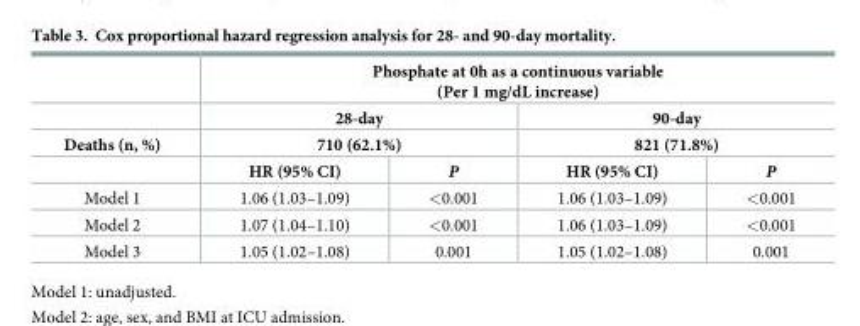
<table><thead><tr><td rowspan="4">Deaths (n, %)</td><td colspan="4">Phosphate at 0h as a continuous variable (Per 1 mg/dL increase)</td></tr><tr><td rowspan="2" colspan="2">28-day 710 (62.1%)</td><td rowspan="2" colspan="2">90-day 821 (71.8%)</td></tr><tr></tr><tr><td>HR (95% CI)</td><td>P</td><td>HR (95% CI)</td><td>P</td></tr></thead><tbody><tr><td>Model 1</td><td>1.06 (1.03–1.09)</td><td>&lt;0.001</td><td>1.06 (1.03–1.09)</td><td>&lt;0.001</td></tr><tr><td>Model 2</td><td>1.07 (1.04–1.10)</td><td>&lt;0.001</td><td>1.06 (1.03–1.09)</td><td>&lt;0.001</td></tr><tr><td>Model 3</td><td>1.05 (1.02–1.08)</td><td>0.001</td><td>1.05 (1.02–1.08)</td><td>0.001</td></tr></tbody></table>